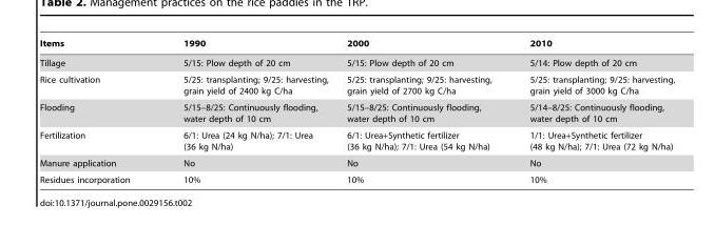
<table><thead><tr><td>Items</td><td>1990</td><td>2000</td><td>2010</td></tr></thead><tbody><tr><td>Tillage</td><td>5/15: Plow depth of 20 cm</td><td>5/15: Plow depth of 20 cm</td><td>5/14: Plow depth of 20 cm</td></tr><tr><td>Rice cultivation</td><td>5/25: transplanting; 9/25: harvesting, grain yield of 2400 kg C/ha</td><td>5/25: transplanting; 9/25: harvesting, grain yield of 2700 kg C/ha</td><td>5/25: transplanting; 9/25: harvesting, grain yield of 3000 kg C/ha</td></tr><tr><td>Flooding</td><td>5/15–8/25: Continuously flooding, water depth of 10 cm</td><td>5/15–8/25: Continuously flooding, water depth of 10 cm</td><td>5/14–8/25: Continuously flooding, water depth of 10 cm</td></tr><tr><td>Fertilization</td><td>6/1: Urea (24 kg N/ha); 7/1: Urea (36 kg N/ha)</td><td>6/1: Urea+Synthetic fertilizer (36 kg N/ha); 7/1: Urea (54 kg N/ha)</td><td>1/1: Urea+Synthetic fertilizer (48 kg N/ha); 7/1: Urea (72 kg N/ha)</td></tr><tr><td>Manure application</td><td>No</td><td>No</td><td>No</td></tr><tr><td>Residues incorporation</td><td>10%</td><td>10%</td><td>10%</td></tr></tbody></table>